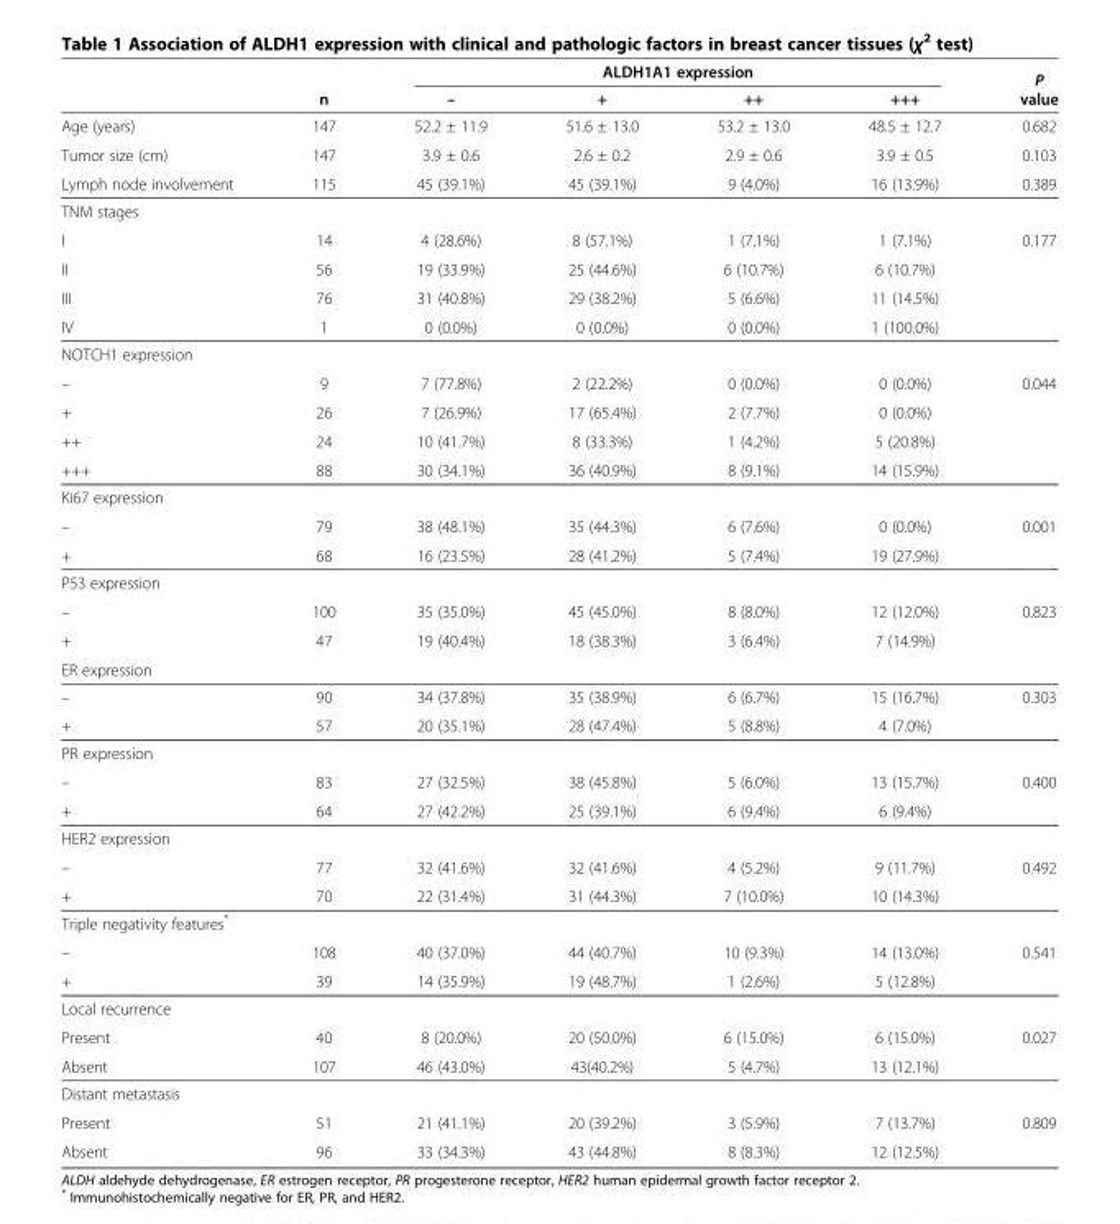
<table><thead><tr><td rowspan="2"></td><td rowspan="2">n</td><td colspan="4">ALDH1A1 expression</td><td rowspan="2">P value</td></tr><tr><td>–</td><td>+</td><td>++</td><td>+++</td></tr></thead><tbody><tr><td>Age (years)</td><td>147</td><td>52.2 ± 11.9</td><td>51.6 ± 13.0</td><td>53.2 ± 13.0</td><td>48.5 ± 12.7</td><td>0.682</td></tr><tr><td>Tumor size (cm)</td><td>147</td><td>3.9 ± 0.6</td><td>2.6 ± 0.2</td><td>2.9 ± 0.6</td><td>3.9 ± 0.5</td><td>0.103</td></tr><tr><td>Lymph node involvement</td><td>115</td><td>45 (39.1%)</td><td>45 (39.1%)</td><td>9 (4.0%)</td><td>16 (13.9%)</td><td>0.389</td></tr><tr><td colspan="7">TNM stages</td></tr><tr><td>I</td><td>14</td><td>4 (28.6%)</td><td>8 (57.1%)</td><td>1 (7.1%)</td><td>1 (7.1%)</td><td>0.177</td></tr><tr><td>II</td><td>56</td><td>19 (33.9%)</td><td>25 (44.6%)</td><td>6 (10.7%)</td><td>6 (10.7%)</td><td></td></tr><tr><td>III</td><td>76</td><td>31 (40.8%)</td><td>29 (38.2%)</td><td>5 (6.6%)</td><td>11 (14.5%)</td><td></td></tr><tr><td>IV</td><td>1</td><td>0 (0.0%)</td><td>0 (0.0%)</td><td>0 (0.0%)</td><td>1 (100.0%)</td><td></td></tr><tr><td colspan="7">NOTCH1 expression</td></tr><tr><td>–</td><td>9</td><td>7 (77.8%)</td><td>2 (22.2%)</td><td>0 (0.0%)</td><td>0 (0.0%)</td><td>0.044</td></tr><tr><td>+</td><td>26</td><td>7 (26.9%)</td><td>17 (65.4%)</td><td>2 (7.7%)</td><td>0 (0.0%)</td><td></td></tr><tr><td>++</td><td>24</td><td>10 (41.7%)</td><td>8 (33.3%)</td><td>1 (4.2%)</td><td>5 (20.8%)</td><td></td></tr><tr><td>+++</td><td>88</td><td>30 (34.1%)</td><td>36 (40.9%)</td><td>8 (9.1%)</td><td>14 (15.9%)</td><td></td></tr><tr><td colspan="7">Ki67 expression</td></tr><tr><td>–</td><td>79</td><td>38 (48.1%)</td><td>35 (44.3%)</td><td>6 (7.6%)</td><td>0 (0.0%)</td><td>0.001</td></tr><tr><td>+</td><td>68</td><td>16 (23.5%)</td><td>28 (41.2%)</td><td>5 (7.4%)</td><td>19 (27.9%)</td><td></td></tr><tr><td colspan="7">P53 expression</td></tr><tr><td>–</td><td>100</td><td>35 (35.0%)</td><td>45 (45.0%)</td><td>8 (8.0%)</td><td>12 (12.0%)</td><td>0.823</td></tr><tr><td>+</td><td>47</td><td>19 (40.4%)</td><td>18 (38.3%)</td><td>3 (6.4%)</td><td>7 (14.9%)</td><td></td></tr><tr><td colspan="7">ER expression</td></tr><tr><td>–</td><td>90</td><td>34 (37.8%)</td><td>35 (38.9%)</td><td>6 (6.7%)</td><td>15 (16.7%)</td><td>0.303</td></tr><tr><td>+</td><td>57</td><td>20 (35.1%)</td><td>28 (47.4%)</td><td>5 (8.8%)</td><td>4 (7.0%)</td><td></td></tr><tr><td colspan="7">PR expression</td></tr><tr><td>–</td><td>83</td><td>27 (32.5%)</td><td>38 (45.8%)</td><td>5 (6.0%)</td><td>13 (15.7%)</td><td>0.400</td></tr><tr><td>+</td><td>64</td><td>27 (42.2%)</td><td>25 (39.1%)</td><td>6 (9.4%)</td><td>6 (9.4%)</td><td></td></tr><tr><td colspan="7">HER2 expression</td></tr><tr><td>–</td><td>77</td><td>32 (41.6%)</td><td>32 (41.6%)</td><td>4 (5.2%)</td><td>9 (11.7%)</td><td>0.492</td></tr><tr><td>+</td><td>70</td><td>22 (31.4%)</td><td>31 (44.3%)</td><td>7 (10.0%)</td><td>10 (14.3%)</td><td></td></tr><tr><td colspan="7">Triple negativity features*</td></tr><tr><td>–</td><td>108</td><td>40 (37.0%)</td><td>44 (40.7%)</td><td>10 (9.3%)</td><td>14 (13.0%)</td><td>0.541</td></tr><tr><td>+</td><td>39</td><td>14 (35.9%)</td><td>19 (48.7%)</td><td>1 (2.6%)</td><td>5 (12.8%)</td><td></td></tr><tr><td colspan="7">Local recurrence</td></tr><tr><td>Present</td><td>40</td><td>8 (20.0%)</td><td>20 (50.0%)</td><td>6 (15.0%)</td><td>6 (15.0%)</td><td>0.027</td></tr><tr><td>Absent</td><td>107</td><td>46 (43.0%)</td><td>43(40.2%)</td><td>5 (4.7%)</td><td>13 (12.1%)</td><td></td></tr><tr><td colspan="7">Distant metastasis</td></tr><tr><td>Present</td><td>51</td><td>21 (41.1%)</td><td>20 (39.2%)</td><td>3 (5.9%)</td><td>7 (13.7%)</td><td>0.809</td></tr><tr><td>Absent</td><td>96</td><td>33 (34.3%)</td><td>43 (44.8%)</td><td>8 (8.3%)</td><td>12 (12.5%)</td><td></td></tr></tbody></table>